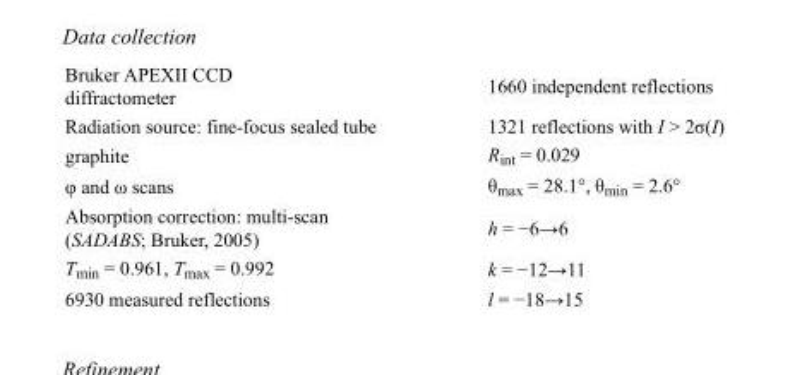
<table><tbody><tr><td>Bruker APEXII CCD diffractometer</td><td>1660 independent reflections</td></tr><tr><td>Radiation source: fine-focus sealed tube</td><td>1321 reflections with I &gt; 2σ(I)</td></tr><tr><td>graphite</td><td>R<sub>int</sub> = 0.029</td></tr><tr><td>φ and ω scans</td><td>θ<sub>max</sub> = 28.1°, θ<sub>min</sub> = 2.6°</td></tr><tr><td>Absorption correction: multi-scan (SADABS; Bruker, 2005)</td><td>h = −6→6</td></tr><tr><td>T<sub>min</sub> = 0.961, T<sub>max</sub> = 0.992</td><td>k = −12→11</td></tr><tr><td>6930 measured reflections</td><td>l = −18→15</td></tr></tbody></table>